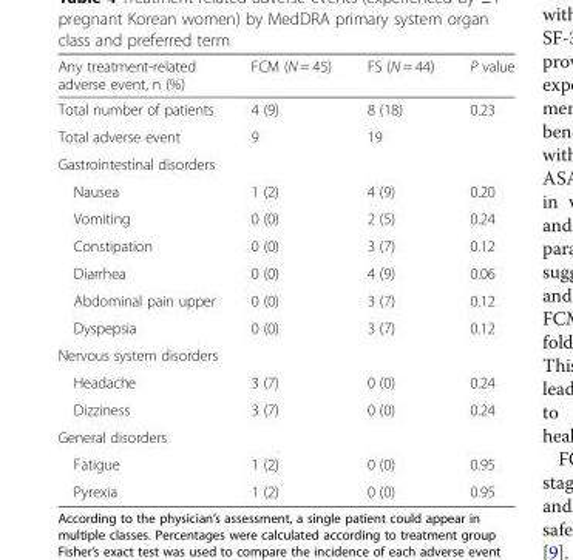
<table><thead><tr><td>Any treatment-related adverse event, n (%)</td><td>FCM (N = 45)</td><td>FS (N = 44)</td><td>P value</td></tr></thead><tbody><tr><td>Total number of patients</td><td>4 (9)</td><td>8 (18)</td><td>0.23</td></tr><tr><td>Total adverse event</td><td>9</td><td>19</td><td></td></tr><tr><td colspan="4">Gastrointestinal disorders</td></tr><tr><td>Nausea</td><td>1 (2)</td><td>4 (9)</td><td>0.20</td></tr><tr><td>Vomiting</td><td>0 (0)</td><td>2 (5)</td><td>0.24</td></tr><tr><td>Constipation</td><td>0 (0)</td><td>3 (7)</td><td>0.12</td></tr><tr><td>Diarrhea</td><td>0 (0)</td><td>4 (9)</td><td>0.06</td></tr><tr><td>Abdominal pain upper</td><td>0 (0)</td><td>3 (7)</td><td>0.12</td></tr><tr><td>Dyspepsia</td><td>0 (0)</td><td>3 (7)</td><td>0.12</td></tr><tr><td colspan="4">Nervous system disorders</td></tr><tr><td>Headache</td><td>3 (7)</td><td>0 (0)</td><td>0.24</td></tr><tr><td>Dizziness</td><td>3 (7)</td><td>0 (0)</td><td>0.24</td></tr><tr><td colspan="4">General disorders</td></tr><tr><td>Fatigue</td><td>1 (2)</td><td>0 (0)</td><td>0.95</td></tr><tr><td>Pyrexia</td><td>1 (2)</td><td>0 (0)</td><td>0.95</td></tr></tbody></table>